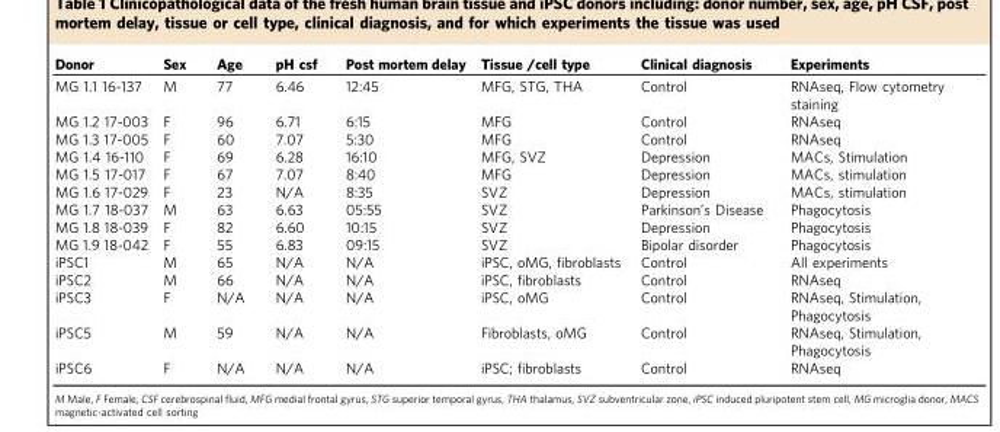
<table><thead><tr><td>Donor</td><td>Sex</td><td>Age</td><td>pH csf</td><td>Post mortem delay</td><td>Tissue /cell type</td><td>Clinical diagnosis</td><td>Experiments</td></tr></thead><tbody><tr><td>MG 1.1 16-137</td><td>M</td><td>77</td><td>6.46</td><td>12:45</td><td>MFG, STG, THA</td><td>Control</td><td>RNAseq, Flow cytometry staining</td></tr><tr><td>MG 1.2 17-003</td><td>F</td><td>96</td><td>6.71</td><td>6:15</td><td>MFG</td><td>Control</td><td>RNAseq</td></tr><tr><td>MG 1.3 17-005</td><td>F</td><td>60</td><td>7.07</td><td>5:30</td><td>MFG</td><td>Control</td><td>RNAseq</td></tr><tr><td>MG 1.4 16-110</td><td>F</td><td>69</td><td>6.28</td><td>16:10</td><td>MFG, SVZ</td><td>Depression</td><td>MACs, Stimulation</td></tr><tr><td>MG 1.5 17-017</td><td>F</td><td>67</td><td>7.07</td><td>8:40</td><td>MFG</td><td>Depression</td><td>MACs, stimulation</td></tr><tr><td>MG 1.6 17-029</td><td>F</td><td>23</td><td>N/A</td><td>8:35</td><td>SVZ</td><td>Depression</td><td>MACs, stimulation</td></tr><tr><td>MG 1.7 18-037</td><td>M</td><td>63</td><td>6.63</td><td>05:55</td><td>SVZ</td><td>Parkinson’s Disease</td><td>Phagocytosis</td></tr><tr><td>MG 1.8 18-039</td><td>F</td><td>82</td><td>6.60</td><td>10:15</td><td>SVZ</td><td>Depression</td><td>Phagocytosis</td></tr><tr><td>MG 1.9 18-042</td><td>F</td><td>55</td><td>6.83</td><td>09:15</td><td>SVZ</td><td>Bipolar disorder</td><td>Phagocytosis</td></tr><tr><td>iPSC1</td><td>M</td><td>65</td><td>N/A</td><td>N/A</td><td>iPSC, oMG, fibroblasts</td><td>Control</td><td>All experiments</td></tr><tr><td>iPSC2</td><td>M</td><td>66</td><td>N/A</td><td>N/A</td><td>iPSC, fibroblasts</td><td>Control</td><td>RNAseq</td></tr><tr><td>iPSC3</td><td>F</td><td>N/A</td><td>N/A</td><td>N/A</td><td>iPSC, oMG</td><td>Control</td><td>RNAseq, Stimulation, Phagocytosis</td></tr><tr><td>iPSC5</td><td>M</td><td>59</td><td>N/A</td><td>N/A</td><td>Fibroblasts, oMG</td><td>Control</td><td>RNAseq, Stimulation, Phagocytosis</td></tr><tr><td>iPSC6</td><td>F</td><td>N/A</td><td>N/A</td><td>N/A</td><td>iPSC; fibroblasts</td><td>Control</td><td>RNAseq</td></tr></tbody></table>